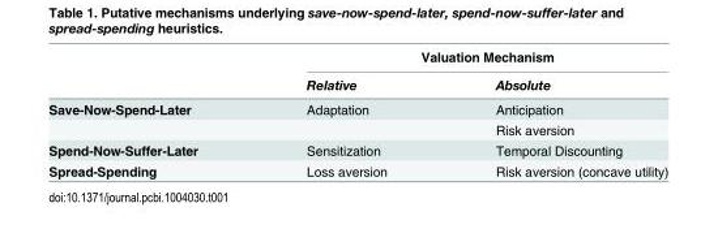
<table><thead><tr><td rowspan="2"></td><td colspan="2">Valuation Mechanism</td></tr><tr><td>Relative</td><td>Absolute</td></tr></thead><tbody><tr><td rowspan="2">Save-Now-Spend-Later</td><td>Adaptation</td><td>Anticipation</td></tr><tr><td></td><td>Risk aversion</td></tr><tr><td>Spend-Now-Suffer-Later</td><td>Sensitization</td><td>Temporal Discounting</td></tr><tr><td>Spread-Spending</td><td>Loss aversion</td><td>Risk aversion (concave utility)</td></tr></tbody></table>